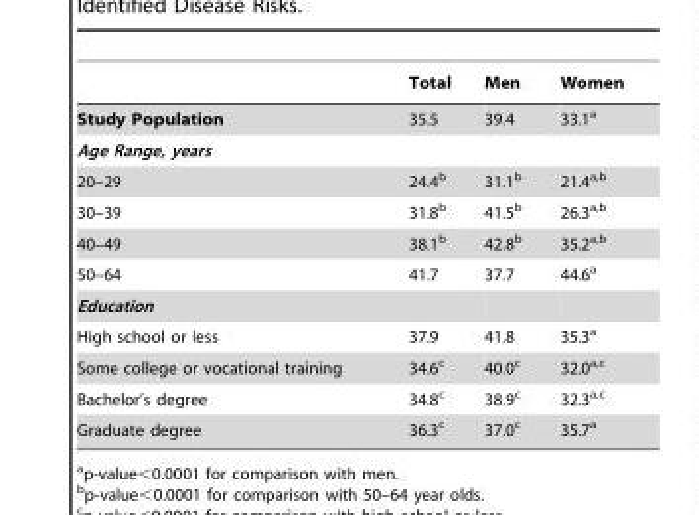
<table><thead><tr><td></td><td>Total</td><td>Men</td><td>Women</td></tr></thead><tbody><tr><td>Study Population</td><td>35.5</td><td>39.4</td><td>33.1<sup>a</sup></td></tr><tr><td colspan="4">Age Range, years</td></tr><tr><td>20–29</td><td>24.4<sup>b</sup></td><td>31.1<sup>b</sup></td><td>21.4<sup>a,</sup>b</td></tr><tr><td>30–39</td><td>31.8<sup>b</sup></td><td>41.5<sup>b</sup></td><td>26.3<sup>a,</sup>b</td></tr><tr><td>40–49</td><td>38.1<sup>b</sup></td><td>42.8<sup>b</sup></td><td>35.2<sup>a,</sup>b</td></tr><tr><td>50–64</td><td>41.7</td><td>37.7</td><td>44.6<sup>a</sup></td></tr><tr><td colspan="4">Education</td></tr><tr><td>High school or less</td><td>37.9</td><td>41.8</td><td>35.3<sup>a</sup></td></tr><tr><td>Some college or vocational training</td><td>34.6<sup>c</sup></td><td>40.0<sup>c</sup></td><td>32.0<sup>a,</sup>c</td></tr><tr><td>Bachelor’s degree</td><td>34.8<sup>c</sup></td><td>38.9<sup>c</sup></td><td>32.3<sup>a,</sup>c</td></tr><tr><td>Graduate degree</td><td>36.3<sup>c</sup></td><td>37.0<sup>c</sup></td><td>35.7<sup>a</sup></td></tr></tbody></table>